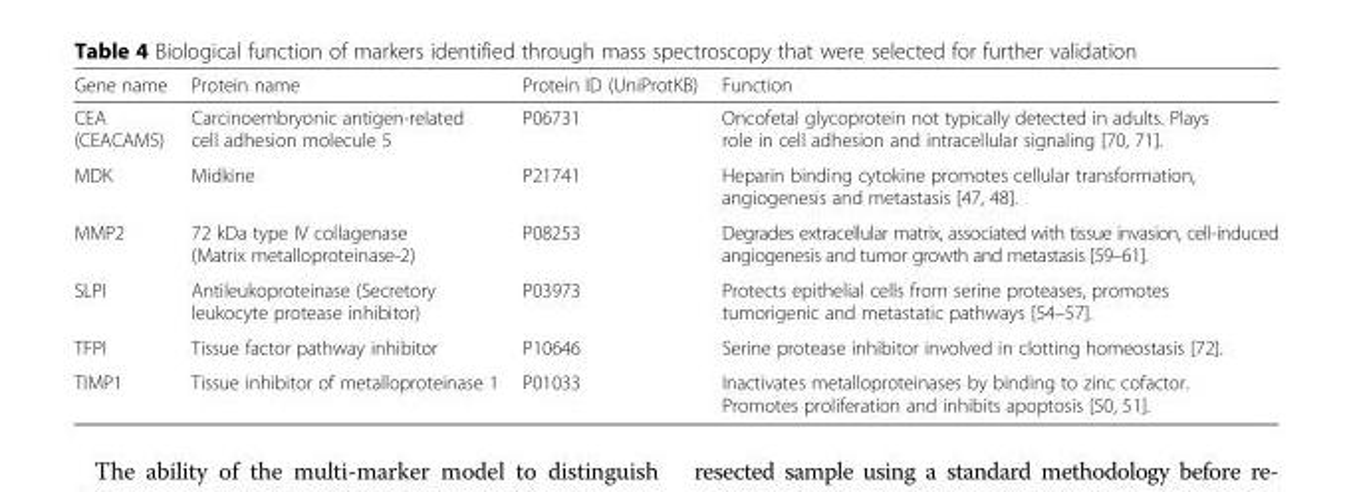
<table><thead><tr><td>Gene name</td><td>Protein name</td><td>Protein ID (UniProtKB)</td><td>Function</td></tr></thead><tbody><tr><td>CEA (CEACAM5)</td><td>Carcinoembryonic antigen-related cell adhesion molecule 5</td><td>P06731</td><td>Oncofetal glycoprotein not typically detected in adults. Plays role in cell adhesion and intracellular signaling [70, 71].</td></tr><tr><td>MDK</td><td>Midkine</td><td>P21741</td><td>Heparin binding cytokine promotes cellular transformation, angiogenesis and metastasis [47, 48].</td></tr><tr><td>MMP2</td><td>72 kDa type IV collagenase (Matrix metalloproteinase-2)</td><td>P08253</td><td>Degrades extracellular matrix, associated with tissue invasion, cell-induced angiogenesis and tumor growth and metastasis [59–61].</td></tr><tr><td>SLPI</td><td>Antileukoproteinase (Secretory leukocyte protease inhibitor)</td><td>P03973</td><td>Protects epithelial cells from serine proteases, promotes tumorigenic and metastatic pathways [54–57].</td></tr><tr><td>TFPI</td><td>Tissue factor pathway inhibitor</td><td>P10646</td><td>Serine protease inhibitor involved in clotting homeostasis [72].</td></tr><tr><td>TIMP1</td><td>Tissue inhibitor of metalloproteinase 1</td><td>P01033</td><td>Inactivates metalloproteinases by binding to zinc cofactor. Promotes proliferation and inhibits apoptosis [50, 51].</td></tr></tbody></table>